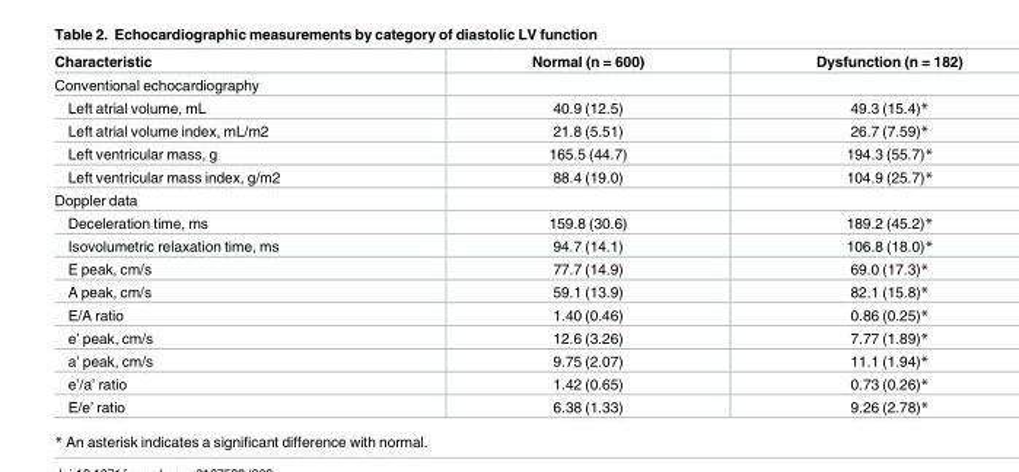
<table><thead><tr><td>Characteristic</td><td>Normal (n = 600)</td><td>Dysfunction (n = 182)</td></tr></thead><tbody><tr><td colspan="3">Conventional echocardiography</td></tr><tr><td>Left atrial volume, mL</td><td>40.9 (12.5)</td><td>49.3 (15.4)*</td></tr><tr><td>Left atrial volume index, mL/m2</td><td>21.8 (5.51)</td><td>26.7 (7.59)*</td></tr><tr><td>Left ventricular mass, g</td><td>165.5 (44.7)</td><td>194.3 (55.7)*</td></tr><tr><td>Left ventricular mass index, g/m2</td><td>88.4 (19.0)</td><td>104.9 (25.7)*</td></tr><tr><td colspan="3">Doppler data</td></tr><tr><td>Deceleration time, ms</td><td>159.8 (30.6)</td><td>189.2 (45.2)*</td></tr><tr><td>Isovolumetric relaxation time, ms</td><td>94.7 (14.1)</td><td>106.8 (18.0)*</td></tr><tr><td>E peak, cm/s</td><td>77.7 (14.9)</td><td>69.0 (17.3)*</td></tr><tr><td>A peak, cm/s</td><td>59.1 (13.9)</td><td>82.1 (15.8)*</td></tr><tr><td>E/A ratio</td><td>1.40 (0.46)</td><td>0.86 (0.25)*</td></tr><tr><td>e’ peak, cm/s</td><td>12.6 (3.26)</td><td>7.77 (1.89)*</td></tr><tr><td>a’ peak, cm/s</td><td>9.75 (2.07)</td><td>11.1 (1.94)*</td></tr><tr><td>e’/a’ ratio</td><td>1.42 (0.65)</td><td>0.73 (0.26)*</td></tr><tr><td>E/e’ ratio</td><td>6.38 (1.33)</td><td>9.26 (2.78)*</td></tr></tbody></table>